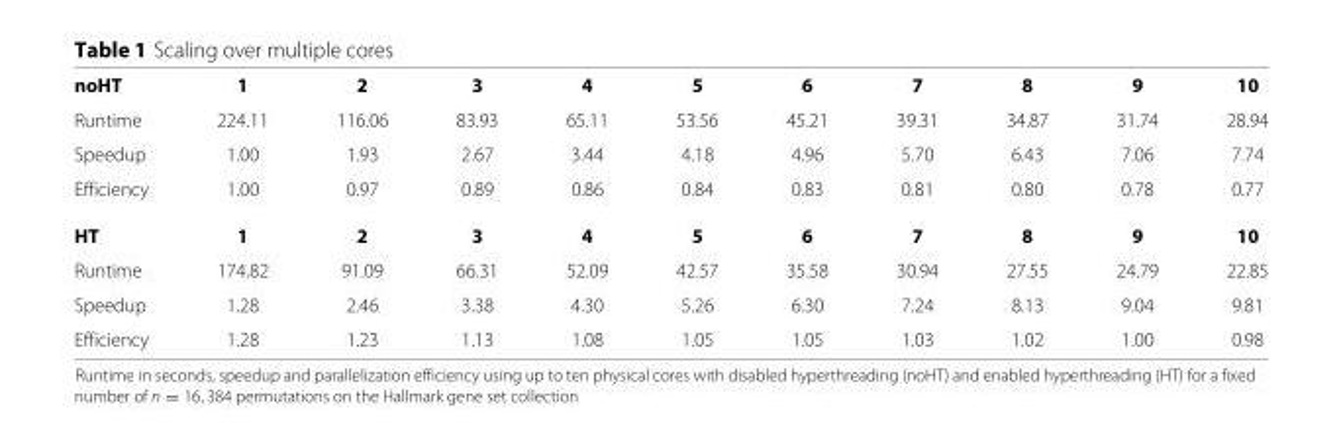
<table><tbody><tr><td>noHT</td><td>1</td><td>2</td><td>3</td><td>4</td><td>5</td><td>6</td><td>7</td><td>8</td><td>9</td><td>10</td></tr><tr><td>Runtime</td><td>224.11</td><td>116.06</td><td>83.93</td><td>65.11</td><td>53.56</td><td>45.21</td><td>39.31</td><td>34.87</td><td>31.74</td><td>28.94</td></tr><tr><td>Speedup</td><td>1.00</td><td>1.93</td><td>2.67</td><td>3.44</td><td>4.18</td><td>4.96</td><td>5.70</td><td>6.43</td><td>7.06</td><td>7.74</td></tr><tr><td>Efficiency</td><td>1.00</td><td>0.97</td><td>0.89</td><td>0.86</td><td>0.84</td><td>0.83</td><td>0.81</td><td>0.80</td><td>0.78</td><td>0.77</td></tr><tr><td>HT</td><td>1</td><td>2</td><td>3</td><td>4</td><td>5</td><td>6</td><td>7</td><td>8</td><td>9</td><td>10</td></tr><tr><td>Runtime</td><td>174.82</td><td>91.09</td><td>66.31</td><td>52.09</td><td>42.57</td><td>35.58</td><td>30.94</td><td>27.55</td><td>24.79</td><td>22.85</td></tr><tr><td>Speedup</td><td>1.28</td><td>2.46</td><td>3.38</td><td>4.30</td><td>5.26</td><td>6.30</td><td>7.24</td><td>8.13</td><td>9.04</td><td>9.81</td></tr><tr><td>Efficiency</td><td>1.28</td><td>1.23</td><td>1.13</td><td>1.08</td><td>1.05</td><td>1.05</td><td>1.03</td><td>1.02</td><td>1.00</td><td>0.98</td></tr></tbody></table>